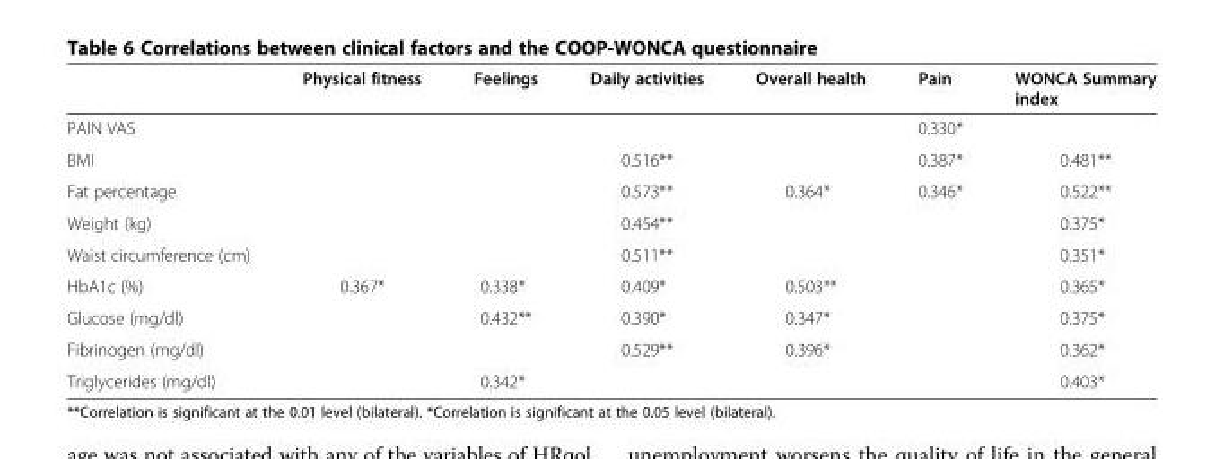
<table><thead><tr><td></td><td>Physical fitness</td><td>Feelings</td><td>Daily activities</td><td>Overall health</td><td>Pain</td><td>WONCA Summary index</td></tr></thead><tbody><tr><td>PAIN VAS</td><td></td><td></td><td></td><td></td><td>0.330*</td><td></td></tr><tr><td>BMI</td><td></td><td></td><td>0.516**</td><td></td><td>0.387*</td><td>0.481**</td></tr><tr><td>Fat percentage</td><td></td><td></td><td>0.573**</td><td>0.364*</td><td>0.346*</td><td>0.522**</td></tr><tr><td>Weight (kg)</td><td></td><td></td><td>0.454**</td><td></td><td></td><td>0.375*</td></tr><tr><td>Waist circumference (cm)</td><td></td><td></td><td>0.511**</td><td></td><td></td><td>0.351*</td></tr><tr><td>HbA1c (%)</td><td>0.367*</td><td>0.338*</td><td>0.409*</td><td>0.503**</td><td></td><td>0.365*</td></tr><tr><td>Glucose (mg/dl)</td><td></td><td>0.432**</td><td>0.390*</td><td>0.347*</td><td></td><td>0.375*</td></tr><tr><td>Fibrinogen (mg/dl)</td><td></td><td></td><td>0.529**</td><td>0.396*</td><td></td><td>0.362*</td></tr><tr><td>Triglycerides (mg/dl)</td><td></td><td>0.342*</td><td></td><td></td><td></td><td>0.403*</td></tr></tbody></table>